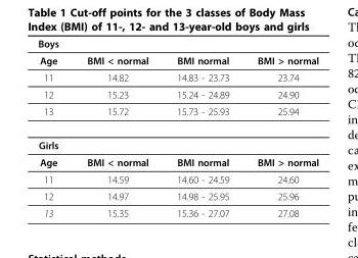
<table><thead><tr><td>Boys</td><td></td><td></td><td></td></tr></thead><tbody><tr><td>Age</td><td>BMI &lt; normal</td><td>BMI normal</td><td>BMI &gt; normal</td></tr><tr><td>11</td><td>14.82</td><td>14.83 - 23.73</td><td>23.74</td></tr><tr><td>12</td><td>15.23</td><td>15.24 - 24.89</td><td>24.90</td></tr><tr><td>13</td><td>15.72</td><td>15.73 - 25.93</td><td>25.94</td></tr><tr><td colspan="4">Girls</td></tr><tr><td>Age</td><td>BMI &lt; normal</td><td>BMI normal</td><td>BMI &gt; normal</td></tr><tr><td>11</td><td>14.59</td><td>14.60 - 24.59</td><td>24.60</td></tr><tr><td>12</td><td>14.97</td><td>14.98 - 25.95</td><td>25.96</td></tr><tr><td>13</td><td>15.35</td><td>15.36 - 27.07</td><td>27.08</td></tr></tbody></table>